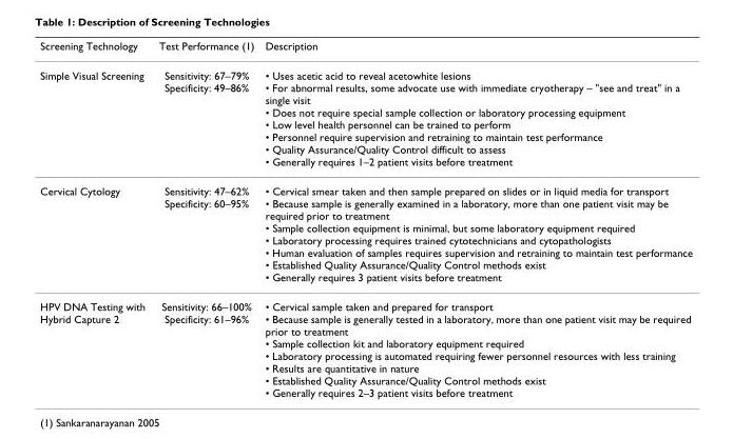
<table><thead><tr><td>Screening Technology</td><td>Test Performance (1)</td><td>Description</td></tr></thead><tbody><tr><td>Simple Visual Screening</td><td>Sensitivity: 67–79% Specificity: 49–86%</td><td>• Uses acetic acid to reveal acetowhite lesions • For abnormal results, some advocate use with immediate cryotherapy – &quot;see and treat&quot; in a single visit • Does not require special sample collection or laboratory processing equipment • Low level health personnel can be trained to perform • Personnel require supervision and retraining to maintain test performance • Quality Assurance/Quality Control difficult to assess • Generally requires 1–2 patient visits before treatment</td></tr><tr><td>Cervical Cytology</td><td>Sensitivity: 47–62% Specificity: 60–95%</td><td>• Cervical smear taken and then sample prepared on slides or in liquid media for transport • Because sample is generally examined in a laboratory, more than one patient visit may be required prior to treatment • Sample collection equipment is minimal, but some laboratory equipment required • Laboratory processing requires trained cytotechnicians and cytopathologists • Human evaluation of samples requires supervision and retraining to maintain test performance • Established Quality Assurance/Quality Control methods exist • Generally requires 3 patient visits before treatment</td></tr><tr><td>HPV DNA Testing with Hybrid Capture 2</td><td>Sensitivity: 66–100% Specificity: 61–96%</td><td>• Cervical sample taken and prepared for transport • Because sample is generally tested in a laboratory, more than one patient visit may be required prior to treatment • Sample collection kit and laboratory equipment required • Laboratory processing is automated requiring fewer personnel resources with less training • Results are quantitative in nature • Established Quality Assurance/Quality Control methods exist • Generally requires 2–3 patient visits before treatment</td></tr></tbody></table>